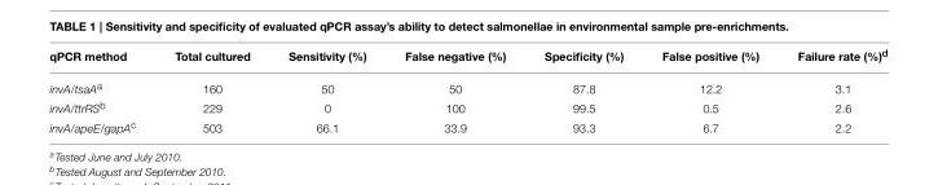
<table><thead><tr><td>qPCR method</td><td>Total cultured</td><td>Sensitivity (%)</td><td>False negative (%)</td><td>Specificity (%)</td><td>False positive (%)</td><td>Failure rate (%)<sup>d</sup></td></tr></thead><tbody><tr><td>invA/tsaA<sup>a</sup></td><td>160</td><td>50</td><td>50</td><td>87.8</td><td>12.2</td><td>3.1</td></tr><tr><td>invA/ttrRS<sup>b</sup></td><td>229</td><td>0</td><td>100</td><td>99.5</td><td>0.5</td><td>2.6</td></tr><tr><td>invA/apeE/gapA<sup>c</sup></td><td>503</td><td>66.1</td><td>33.9</td><td>93.3</td><td>6.7</td><td>2.2</td></tr></tbody></table>